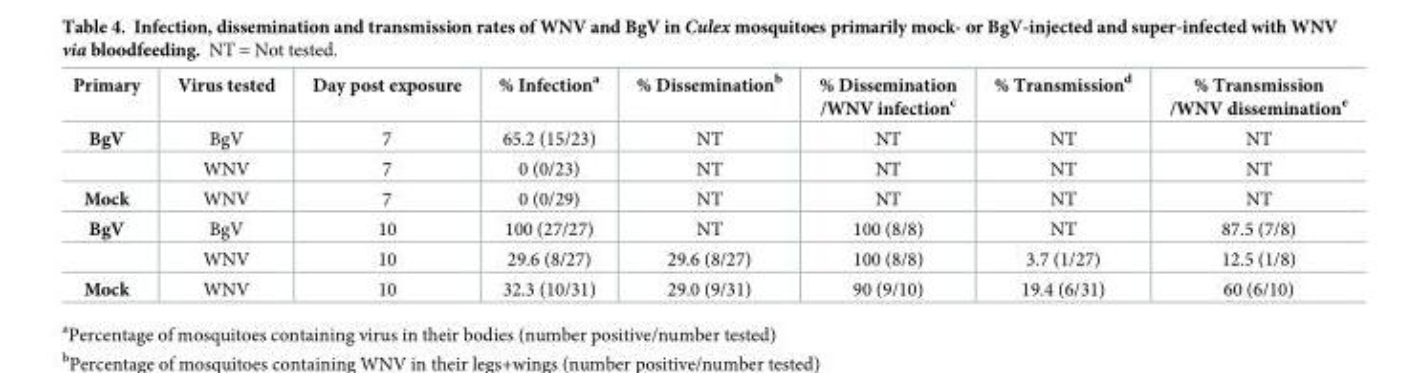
<table><thead><tr><td>Primary</td><td>Virus tested</td><td>Day post exposure</td><td>% Infection<sup>a</sup></td><td>% Dissemination<sup>b</sup></td><td>% Dissemination /WNV infection<sup>c</sup></td><td>% Transmission<sup>d</sup></td><td>% Transmission /WNV dissemination<sup>e</sup></td></tr></thead><tbody><tr><td rowspan="2">BgV</td><td>BgV</td><td>7</td><td>65.2 (15/23)</td><td>NT</td><td>NT</td><td>NT</td><td>NT</td></tr><tr><td>WNV</td><td>7</td><td>0 (0/23)</td><td>NT</td><td>NT</td><td>NT</td><td>NT</td></tr><tr><td>Mock</td><td>WNV</td><td>7</td><td>0 (0/29)</td><td>NT</td><td>NT</td><td>NT</td><td>NT</td></tr><tr><td rowspan="2">BgV</td><td>BgV</td><td>10</td><td>100 (27/27)</td><td>NT</td><td>100 (8/8)</td><td>NT</td><td>87.5 (7/8)</td></tr><tr><td>WNV</td><td>10</td><td>29.6 (8/27)</td><td>29.6 (8/27)</td><td>100 (8/8)</td><td>3.7 (1/27)</td><td>12.5 (1/8)</td></tr><tr><td>Mock</td><td>WNV</td><td>10</td><td>32.3 (10/31)</td><td>29.0 (9/31)</td><td>90 (9/10)</td><td>19.4 (6/31)</td><td>60 (6/10)</td></tr></tbody></table>